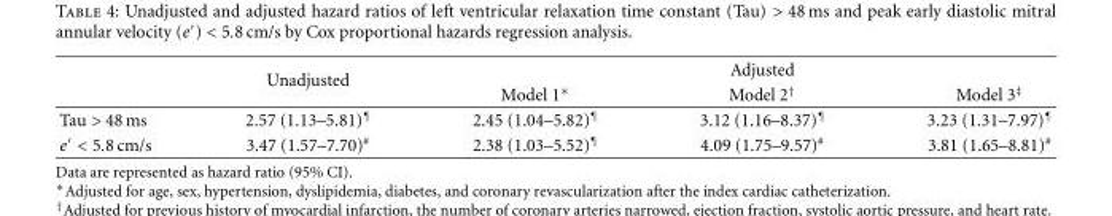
<table><thead><tr><td rowspan="2"></td><td rowspan="2">Unadjusted</td><td rowspan="2">Model 1∗</td><td rowspan="2">Adjusted Model 2<sup>†</sup></td><td rowspan="2">Model 3<sup>‡</sup></td></tr><tr></tr></thead><tbody><tr><td>Tau &gt; 48 ms</td><td>2.57 (1.13–5.81)<sup>¶</sup></td><td>2.45 (1.04–5.82)<sup>¶</sup></td><td>3.12 (1.16–8.37)<sup>¶</sup></td><td>3.23 (1.31–7.97)<sup>¶</sup></td></tr><tr><td>e′ &lt; 5.8 cm/s</td><td>3.47 (1.57–7.70)<sup>#</sup></td><td>2.38 (1.03–5.52)<sup>¶</sup></td><td>4.09 (1.75–9.57)<sup>#</sup></td><td>3.81 (1.65–8.81)<sup>#</sup></td></tr></tbody></table>